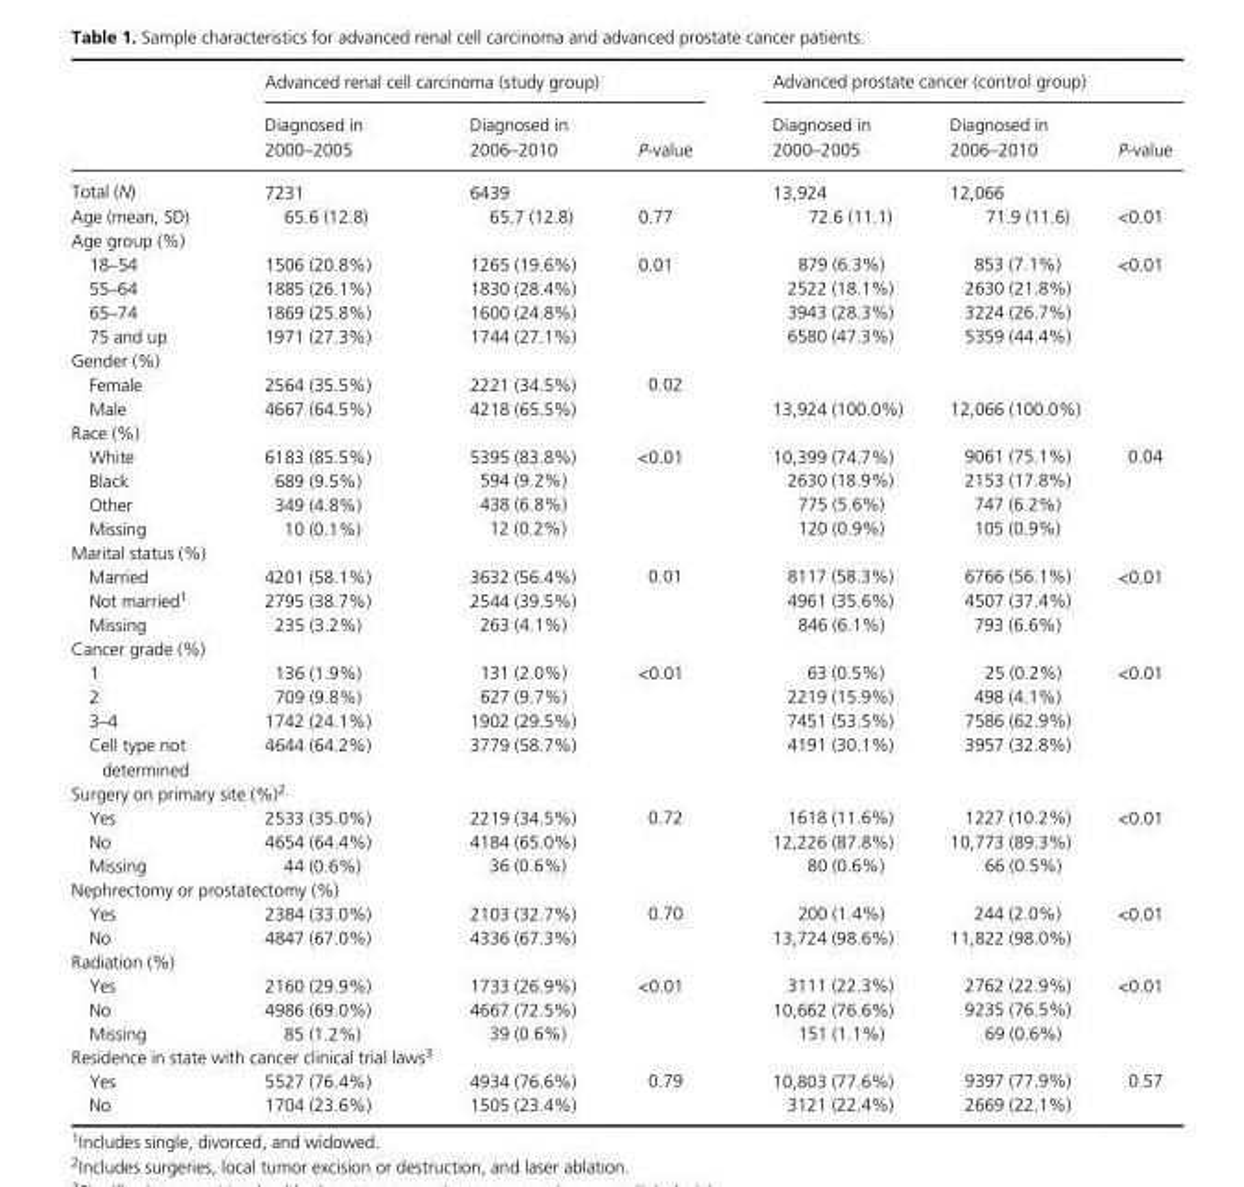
<table><thead><tr><td rowspan="2"></td><td colspan="3">Advanced renal cell carcinoma (study group)</td><td colspan="3">Advanced prostate cancer (control group)</td></tr><tr><td>Diagnosed in 2000–2005</td><td>Diagnosed in 2006–2010</td><td>P- value</td><td>Diagnosed in 2000–2005</td><td>Diagnosed in 2006–2010</td><td>P- value</td></tr></thead><tbody><tr><td>Total (N)</td><td>7231</td><td>6439</td><td></td><td>13,924</td><td>12,066</td><td></td></tr><tr><td>Age (mean, SD)</td><td>65.6 (12.8)</td><td>65.7 (12.8)</td><td>0.77</td><td>72.6 (11.1)</td><td>71.9 (11.6)</td><td>&lt;0.01</td></tr><tr><td colspan="7">Age group (%)</td></tr><tr><td>18–54</td><td>1506 (20.8%)</td><td>1265 (19.6%)</td><td rowspan="4">0.01</td><td>879 (6.3%)</td><td>853 (7.1%)</td><td rowspan="4">&lt;0.01</td></tr><tr><td>55–64</td><td>1885 (26.1%)</td><td>1830 (28.4%)</td><td>2522 (18.1%)</td><td>2630 (21.8%)</td></tr><tr><td>65–74</td><td>1869 (25.8%)</td><td>1600 (24.8%)</td><td>3943 (28.3%)</td><td>3224 (26.7%)</td></tr><tr><td>75 and up</td><td>1971 (27.3%)</td><td>1744 (27.1%)</td><td>6580 (47.3%)</td><td>5359 (44.4%)</td></tr><tr><td colspan="7">Gender (%)</td></tr><tr><td>Female</td><td>2564 (35.5%)</td><td>2221 (34.5%)</td><td rowspan="2">0.02</td><td></td><td></td><td rowspan="2"></td></tr><tr><td>Male</td><td>4667 (64.5%)</td><td>4218 (65.5%)</td><td>13,924 (100.0%)</td><td>12,066 (100.0%)</td></tr><tr><td colspan="7">Race (%)</td></tr><tr><td>White</td><td>6183 (85.5%)</td><td>5395 (83.8%)</td><td rowspan="4">&lt;0.01</td><td>10,399 (74.7%)</td><td>9061 (75.1%)</td><td rowspan="4">0.04</td></tr><tr><td>Black</td><td>689 (9.5%)</td><td>594 (9.2%)</td><td>2630 (18.9%)</td><td>2153 (17.8%)</td></tr><tr><td>Other</td><td>349 (4.8%)</td><td>438 (6.8%)</td><td>775 (5.6%)</td><td>747 (6.2%)</td></tr><tr><td>Missing</td><td>10 (0.1%)</td><td>12 (0.2%)</td><td>120 (0.9%)</td><td>105 (0.9%)</td></tr><tr><td colspan="7">Marital status (%)</td></tr><tr><td>Married</td><td>4201 (58.1%)</td><td>3632 (56.4%)</td><td rowspan="3">0.01</td><td>8117 (58.3%)</td><td>6766 (56.1%)</td><td rowspan="3">&lt;0.01</td></tr><tr><td>Not married1</td><td>2795 (38.7%)</td><td>2544 (39.5%)</td><td>4961 (35.6%)</td><td>4507 (37.4%)</td></tr><tr><td>Missing</td><td>235 (3.2%)</td><td>263 (4.1%)</td><td>846 (6.1%)</td><td>793 (6.6%)</td></tr><tr><td colspan="7">Cancer grade (%)</td></tr><tr><td>1</td><td>136 (1.9%)</td><td>131 (2.0%)</td><td rowspan="4">&lt;0.01</td><td>63 (0.5%)</td><td>25 (0.2%)</td><td rowspan="4">&lt;0.01</td></tr><tr><td>2</td><td>709 (9.8%)</td><td>627 (9.7%)</td><td>2219 (15.9%)</td><td>498 (4.1%)</td></tr><tr><td>3–4</td><td>1742 (24.1%)</td><td>1902 (29.5%)</td><td>7451 (53.5%)</td><td>7586 (62.9%)</td></tr><tr><td>Cell type not determined</td><td>4644 (64.2%)</td><td>3779 (58.7%)</td><td>4191 (30.1%)</td><td>3957 (32.8%)</td></tr><tr><td colspan="7">Surgery on primary site (%)2</td></tr><tr><td>Yes</td><td>2533 (35.0%)</td><td>2219 (34.5%)</td><td rowspan="3">0.72</td><td>1618 (11.6%)</td><td>1227 (10.2%)</td><td rowspan="3">&lt;0.01</td></tr><tr><td>No</td><td>4654 (64.4%)</td><td>4184 (65.0%)</td><td>12,226 (87.8%)</td><td>10,773 (89.3%)</td></tr><tr><td>Missing</td><td>44 (0.6%)</td><td>36 (0.6%)</td><td>80 (0.6%)</td><td>66 (0.5%)</td></tr><tr><td colspan="7">Nephrectomy or prostatectomy (%)</td></tr><tr><td>Yes</td><td>2384 (33.0%)</td><td>2103 (32.7%)</td><td rowspan="2">0.70</td><td>200 (1.4%)</td><td>244 (2.0%)</td><td rowspan="2">&lt;0.01</td></tr><tr><td>No</td><td>4847 (67.0%)</td><td>4336 (67.3%)</td><td>13,724 (98.6%)</td><td>11,822 (98.0%)</td></tr><tr><td colspan="7">Radiation (%)</td></tr><tr><td>Yes</td><td>2160 (29.9%)</td><td>1733 (26.9%)</td><td rowspan="3">&lt;0.01</td><td>3111 (22.3%)</td><td>2762 (22.9%)</td><td rowspan="3">&lt;0.01</td></tr><tr><td>No</td><td>4986 (69.0%)</td><td>4667 (72.5%)</td><td>10,662 (76.6%)</td><td>9235 (76.5%)</td></tr><tr><td>Missing</td><td>85 (1.2%)</td><td>39 (0.6%)</td><td>151 (1.1%)</td><td>69 (0.6%)</td></tr><tr><td colspan="7">Residence in state with cancer clinical trial laws3</td></tr><tr><td>Yes</td><td>5527 (76.4%)</td><td>4934 (76.6%)</td><td rowspan="2">0.79</td><td>10,803 (77.6%)</td><td>9397 (77.9%)</td><td rowspan="2">0.57</td></tr><tr><td>No</td><td>1704 (23.6%)</td><td>1505 (23.4%)</td><td>3121 (22.4%)</td><td>2669 (22.1%)</td></tr></tbody></table>